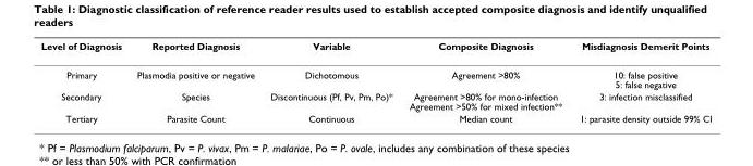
<table><thead><tr><td>Level of Diagnosis</td><td>Reported Diagnosis</td><td>Variable</td><td>Composite Diagnosis</td><td>Misdiagnosis Demerit Points</td></tr></thead><tbody><tr><td>Primary</td><td>Plasmodia positive or negative</td><td>Dichotomous</td><td>Agreement &gt;80%</td><td>10: false positive 5: false negative</td></tr><tr><td>Secondary</td><td>Species</td><td>Discontinuous (Pf, Pv, Pm, Po)*</td><td>Agreement &gt;80% for mono-infection Agreement &gt;50% for mixed infection**</td><td>3: infection misclassified</td></tr><tr><td>Tertiary</td><td>Parasite Count</td><td>Continuous</td><td>Median count</td><td>1: parasite density outside 99% CI</td></tr></tbody></table>